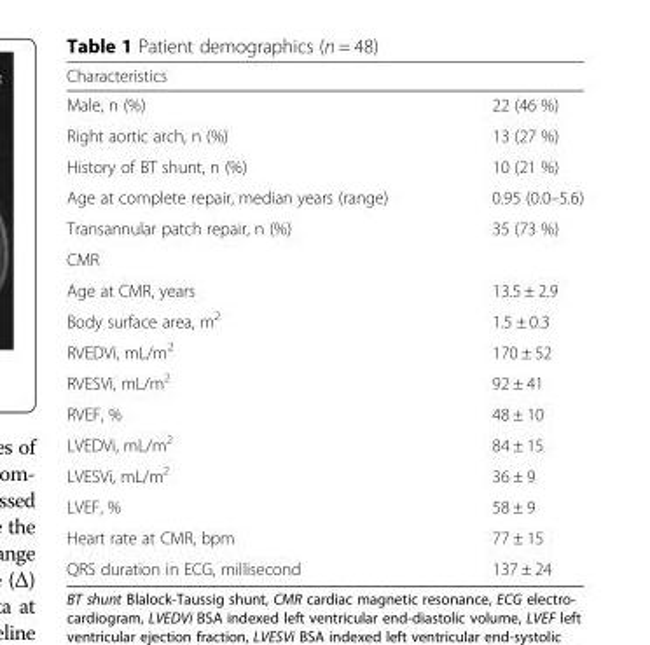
<table><thead><tr><td colspan="2">Characteristics</td></tr><tr><td>Male, n (%)</td><td>22 (46 %)</td></tr></thead><tbody><tr><td>Right aortic arch, n (%)</td><td>13 (27 %)</td></tr><tr><td>History of BT shunt, n (%)</td><td>10 (21 %)</td></tr><tr><td>Age at complete repair, median years (range)</td><td>0.95 (0.0–5.6)</td></tr><tr><td>Transannular patch repair, n (%)</td><td>35 (73 %)</td></tr><tr><td colspan="2">CMR</td></tr><tr><td>Age at CMR, years</td><td>13.5 ± 2.9</td></tr><tr><td>Body surface area, m<sup>2</sup></td><td>1.5 ± 0.3</td></tr><tr><td>RVEDVi, mL/m<sup>2</sup></td><td>170 ± 52</td></tr><tr><td>RVESVi, mL/m<sup>2</sup></td><td>92 ± 41</td></tr><tr><td>RVEF, %</td><td>48 ± 10</td></tr><tr><td>LVEDVi, mL/m<sup>2</sup></td><td>84 ± 15</td></tr><tr><td>LVESVi, mL/m<sup>2</sup></td><td>36 ± 9</td></tr><tr><td>LVEF, %</td><td>58 ± 9</td></tr><tr><td>Heart rate at CMR, bpm</td><td>77 ± 15</td></tr><tr><td>QRS duration in ECG, millisecond</td><td>137 ± 24</td></tr></tbody></table>